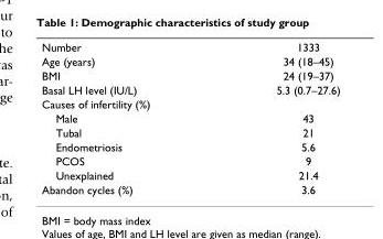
<table><tbody><tr><td>Number</td><td>1333</td></tr><tr><td>Age (years)</td><td>34 (18–45)</td></tr><tr><td>BMI</td><td>24 (19–37)</td></tr><tr><td>Basal LH level (IU/L)</td><td>5.3 (0.7–27.6)</td></tr><tr><td colspan="2">Causes of infertility (%)</td></tr><tr><td>Male</td><td>43</td></tr><tr><td>Tubal</td><td>21</td></tr><tr><td>Endometriosis</td><td>5.6</td></tr><tr><td>PCOS</td><td>9</td></tr><tr><td>Unexplained</td><td>21.4</td></tr><tr><td>Abandon cycles (%)</td><td>3.6</td></tr></tbody></table>